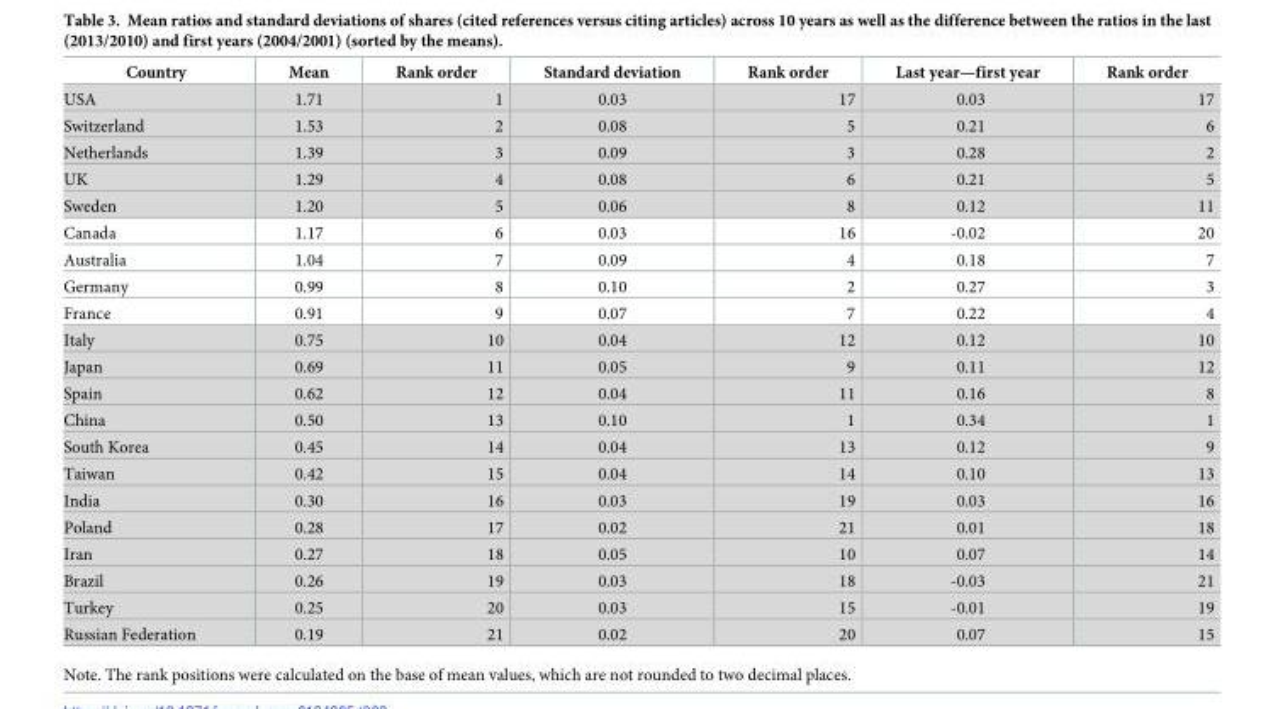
<table><thead><tr><td>Country</td><td>Mean</td><td>Rank order</td><td>Standard deviation</td><td>Rank order</td><td>Last year—first year</td><td>Rank order</td></tr></thead><tbody><tr><td>USA</td><td>1.71</td><td>1</td><td>0.03</td><td>17</td><td>0.03</td><td>17</td></tr><tr><td>Switzerland</td><td>1.53</td><td>2</td><td>0.08</td><td>5</td><td>0.21</td><td>6</td></tr><tr><td>Netherlands</td><td>1.39</td><td>3</td><td>0.09</td><td>3</td><td>0.28</td><td>2</td></tr><tr><td>UK</td><td>1.29</td><td>4</td><td>0.08</td><td>6</td><td>0.21</td><td>5</td></tr><tr><td>Sweden</td><td>1.20</td><td>5</td><td>0.06</td><td>8</td><td>0.12</td><td>11</td></tr><tr><td>Canada</td><td>1.17</td><td>6</td><td>0.03</td><td>16</td><td>-0.02</td><td>20</td></tr><tr><td>Australia</td><td>1.04</td><td>7</td><td>0.09</td><td>4</td><td>0.18</td><td>7</td></tr><tr><td>Germany</td><td>0.99</td><td>8</td><td>0.10</td><td>2</td><td>0.27</td><td>3</td></tr><tr><td>France</td><td>0.91</td><td>9</td><td>0.07</td><td>7</td><td>0.22</td><td>4</td></tr><tr><td>Italy</td><td>0.75</td><td>10</td><td>0.04</td><td>12</td><td>0.12</td><td>10</td></tr><tr><td>Japan</td><td>0.69</td><td>11</td><td>0.05</td><td>9</td><td>0.11</td><td>12</td></tr><tr><td>Spain</td><td>0.62</td><td>12</td><td>0.04</td><td>11</td><td>0.16</td><td>8</td></tr><tr><td>China</td><td>0.50</td><td>13</td><td>0.10</td><td>1</td><td>0.34</td><td>1</td></tr><tr><td>South Korea</td><td>0.45</td><td>14</td><td>0.04</td><td>13</td><td>0.12</td><td>9</td></tr><tr><td>Taiwan</td><td>0.42</td><td>15</td><td>0.04</td><td>14</td><td>0.10</td><td>13</td></tr><tr><td>India</td><td>0.30</td><td>16</td><td>0.03</td><td>19</td><td>0.03</td><td>16</td></tr><tr><td>Poland</td><td>0.28</td><td>17</td><td>0.02</td><td>21</td><td>0.01</td><td>18</td></tr><tr><td>Iran</td><td>0.27</td><td>18</td><td>0.05</td><td>10</td><td>0.07</td><td>14</td></tr><tr><td>Brazil</td><td>0.26</td><td>19</td><td>0.03</td><td>18</td><td>-0.03</td><td>21</td></tr><tr><td>Turkey</td><td>0.25</td><td>20</td><td>0.03</td><td>15</td><td>-0.01</td><td>19</td></tr><tr><td>Russian Federation</td><td>0.19</td><td>21</td><td>0.02</td><td>20</td><td>0.07</td><td>15</td></tr></tbody></table>